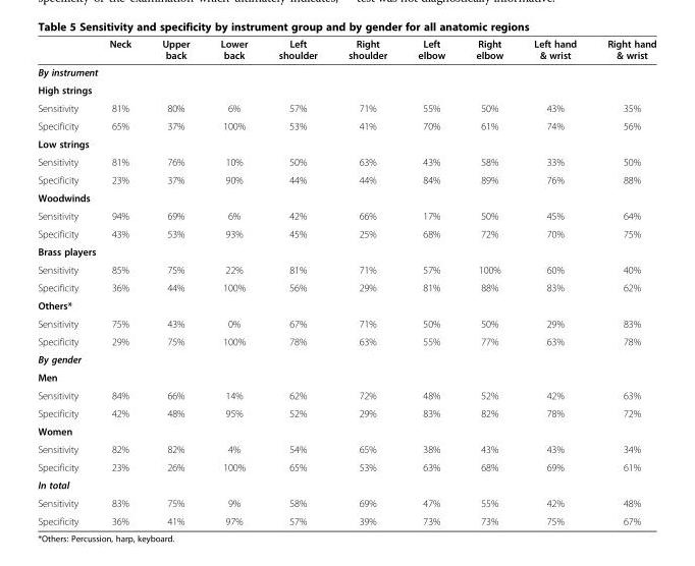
<table><thead><tr><td></td><td>Neck</td><td>Upper back</td><td>Lower back</td><td>Left shoulder</td><td>Right shoulder</td><td>Left elbow</td><td>Right elbow</td><td>Left hand &amp; wrist</td><td>Right hand &amp; wrist</td></tr></thead><tbody><tr><td colspan="10">By instrument</td></tr><tr><td colspan="10">High strings</td></tr><tr><td>Sensitivity</td><td>81%</td><td>80%</td><td>6%</td><td>57%</td><td>71%</td><td>55%</td><td>50%</td><td>43%</td><td>35%</td></tr><tr><td>Specificity</td><td>65%</td><td>37%</td><td>100%</td><td>53%</td><td>41%</td><td>70%</td><td>61%</td><td>74%</td><td>56%</td></tr><tr><td colspan="10">Low strings</td></tr><tr><td>Sensitivity</td><td>81%</td><td>76%</td><td>10%</td><td>50%</td><td>63%</td><td>43%</td><td>58%</td><td>33%</td><td>50%</td></tr><tr><td>Specificity</td><td>23%</td><td>37%</td><td>90%</td><td>44%</td><td>44%</td><td>84%</td><td>89%</td><td>76%</td><td>88%</td></tr><tr><td colspan="10">Woodwinds</td></tr><tr><td>Sensitivity</td><td>94%</td><td>69%</td><td>6%</td><td>42%</td><td>66%</td><td>17%</td><td>50%</td><td>45%</td><td>64%</td></tr><tr><td>Specificity</td><td>43%</td><td>53%</td><td>93%</td><td>45%</td><td>25%</td><td>68%</td><td>72%</td><td>70%</td><td>75%</td></tr><tr><td colspan="10">Brass players</td></tr><tr><td>Sensitivity</td><td>85%</td><td>75%</td><td>22%</td><td>81%</td><td>71%</td><td>57%</td><td>100%</td><td>60%</td><td>40%</td></tr><tr><td>Specificity</td><td>36%</td><td>44%</td><td>100%</td><td>56%</td><td>29%</td><td>81%</td><td>88%</td><td>83%</td><td>62%</td></tr><tr><td colspan="10">Others*</td></tr><tr><td>Sensitivity</td><td>75%</td><td>43%</td><td>0%</td><td>67%</td><td>71%</td><td>50%</td><td>50%</td><td>29%</td><td>83%</td></tr><tr><td>Specificity</td><td>29%</td><td>75%</td><td>100%</td><td>78%</td><td>63%</td><td>55%</td><td>77%</td><td>63%</td><td>78%</td></tr><tr><td colspan="10">By gender</td></tr><tr><td colspan="10">Men</td></tr><tr><td>Sensitivity</td><td>84%</td><td>66%</td><td>14%</td><td>62%</td><td>72%</td><td>48%</td><td>52%</td><td>42%</td><td>63%</td></tr><tr><td>Specificity</td><td>42%</td><td>48%</td><td>95%</td><td>52%</td><td>29%</td><td>83%</td><td>82%</td><td>78%</td><td>72%</td></tr><tr><td colspan="10">Women</td></tr><tr><td>Sensitivity</td><td>82%</td><td>82%</td><td>4%</td><td>54%</td><td>65%</td><td>38%</td><td>43%</td><td>43%</td><td>34%</td></tr><tr><td>Specificity</td><td>23%</td><td>26%</td><td>100%</td><td>65%</td><td>53%</td><td>63%</td><td>68%</td><td>69%</td><td>61%</td></tr><tr><td colspan="10">In total</td></tr><tr><td>Sensitivity</td><td>83%</td><td>75%</td><td>9%</td><td>58%</td><td>69%</td><td>47%</td><td>55%</td><td>42%</td><td>48%</td></tr><tr><td>Specificity</td><td>36%</td><td>41%</td><td>97%</td><td>57%</td><td>39%</td><td>73%</td><td>73%</td><td>75%</td><td>67%</td></tr></tbody></table>